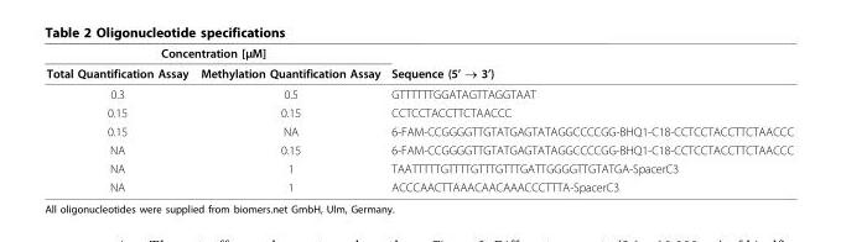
<table><thead><tr><td colspan="2">Concentration [μM]</td><td rowspan="2">Sequence (5’ → 3’)</td></tr><tr><td>Total Quantification Assay</td><td>Methylation Quantification Assay</td></tr></thead><tbody><tr><td>0.3</td><td>0.5</td><td>GTTTTTTGGATAGTTAGGTAAT</td></tr><tr><td>0.15</td><td>0.15</td><td>CCTCCTACCTTCTAACCC</td></tr><tr><td>0.15</td><td>NA</td><td>6-FAM-CCGGGGTTGTATGAGTATAGGCCCCGG-BHQ1-C18-CCTCCTACCTTCTAACCC</td></tr><tr><td>NA</td><td>0.15</td><td>6-FAM-CCGGGGTTGTATGAGTATAGGCCCCGG-BHQ1-C18-CCTCCTACCTTCTAACCC</td></tr><tr><td>NA</td><td>1</td><td>TAATTTTTGTTTTGTTTGTTTGATTGGGGTTGTATGA-SpacerC3</td></tr><tr><td>NA</td><td>1</td><td>ACCCAACTTAAACAACAAACCCTTTA-SpacerC3</td></tr></tbody></table>